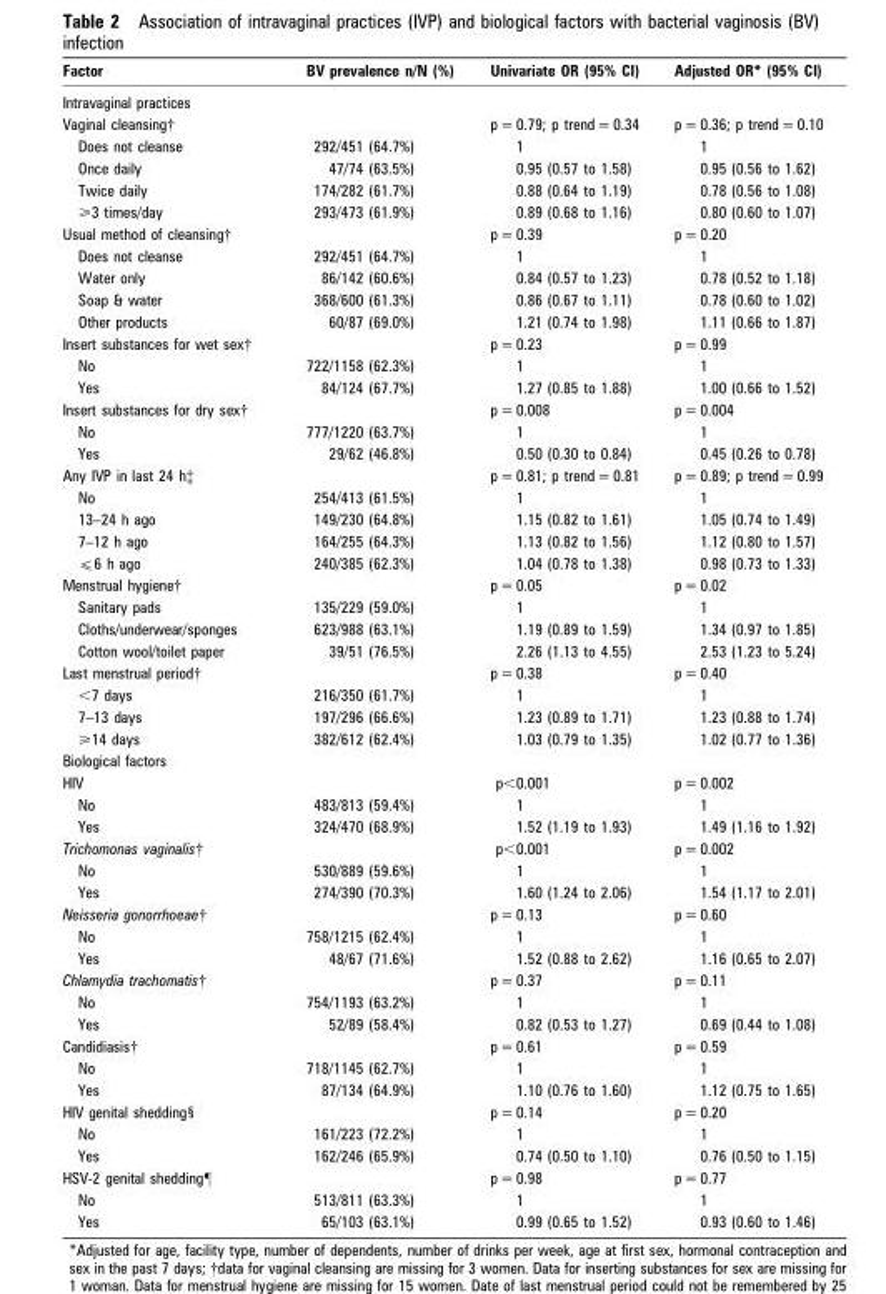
<table><thead><tr><td>Factor</td><td>BV prevalence n/N (%)</td><td>Univariate OR (95% CI)</td><td>Adjusted OR* (95% CI)</td></tr></thead><tbody><tr><td colspan="4">Intravaginal practices</td></tr><tr><td>Vaginal cleansing†</td><td></td><td>p = 0.79; p trend = 0.34</td><td>p = 0.36; p trend = 0.10</td></tr><tr><td>Does not cleanse</td><td>292/451 (64.7%)</td><td>1</td><td>1</td></tr><tr><td>Once daily</td><td>47/74 (63.5%)</td><td>0.95 (0.57 to 1.58)</td><td>0.95 (0.56 to 1.62)</td></tr><tr><td>Twice daily</td><td>174/282 (61.7%)</td><td>0.88 (0.64 to 1.19)</td><td>0.78 (0.56 to 1.08)</td></tr><tr><td>&gt;3 times/day</td><td>293/473 (61.9%)</td><td>0.89 (0.68 to 1.16)</td><td>0.80 (0.60 to 1.07)</td></tr><tr><td>Usual method of cleansing†</td><td></td><td>p = 0.39</td><td>p = 0.20</td></tr><tr><td>Does not cleanse</td><td>292/451 (64.7%)</td><td>1</td><td>1</td></tr><tr><td>Water only</td><td>86/142 (60.6%)</td><td>0.84 (0.57 to 1.23)</td><td>0.78 (0.52 to 1.18)</td></tr><tr><td>Soap &amp; water</td><td>368/600 (61.3%)</td><td>0.86 (0.67 to 1.11)</td><td>0.78 (0.60 to 1.02)</td></tr><tr><td>Other products</td><td>60/87 (69.0%)</td><td>1.21 (0.74 to 1.98)</td><td>1.11 (0.66 to 1.87)</td></tr><tr><td>Insert substances for wet sex†</td><td></td><td>p = 0.23</td><td>p = 0.99</td></tr><tr><td>No</td><td>722/1158 (62.3%)</td><td>1</td><td>1</td></tr><tr><td>Yes</td><td>84/124 (67.7%)</td><td>1.27 (0.85 to 1.88)</td><td>1.00 (0.66 to 1.52)</td></tr><tr><td>Insert substances for dry sex†</td><td></td><td>p = 0.008</td><td>p = 0.004</td></tr><tr><td>No</td><td>777/1220 (63.7%)</td><td>1</td><td>1</td></tr><tr><td>Yes</td><td>29/62 (46.8%)</td><td>0.50 (0.30 to 0.84)</td><td>0.45 (0.26 to 0.78)</td></tr><tr><td>Any IVP in last 24 h‡</td><td></td><td>p = 0.81; p trend = 0.81</td><td>p = 0.89; p trend = 0.99</td></tr><tr><td>No</td><td>254/413 (61.5%)</td><td>1</td><td>1</td></tr><tr><td>13–24 h ago</td><td>149/230 (64.8%)</td><td>1.15 (0.82 to 1.61)</td><td>1.05 (0.74 to 1.49)</td></tr><tr><td>7–12 h ago</td><td>164/255 (64.3%)</td><td>1.13 (0.82 to 1.56)</td><td>1.12 (0.80 to 1.57)</td></tr><tr><td>⩽6 h ago</td><td>240/385 (62.3%)</td><td>1.04 (0.78 to 1.38)</td><td>0.98 (0.73 to 1.33)</td></tr><tr><td>Menstrual hygiene†</td><td></td><td>p = 0.05</td><td>p = 0.02</td></tr><tr><td>Sanitary pads</td><td>135/229 (59.0%)</td><td>1</td><td>1</td></tr><tr><td>Cloths/underwear/sponges</td><td>623/988 (63.1%)</td><td>1.19 (0.89 to 1.59)</td><td>1.34 (0.97 to 1.85)</td></tr><tr><td>Cotton wool/toilet paper</td><td>39/51 (76.5%)</td><td>2.26 (1.13 to 4.55)</td><td>2.53 (1.23 to 5.24)</td></tr><tr><td>Last menstrual period†</td><td></td><td>p = 0.38</td><td>p = 0.40</td></tr><tr><td>&lt;7 days</td><td>216/350 (61.7%)</td><td>1</td><td>1</td></tr><tr><td>7–13 days</td><td>197/296 (66.6%)</td><td>1.23 (0.89 to 1.71)</td><td>1.23 (0.88 to 1.74)</td></tr><tr><td>&gt;14 days</td><td>382/612 (62.4%)</td><td>1.03 (0.79 to 1.35)</td><td>1.02 (0.77 to 1.36)</td></tr><tr><td colspan="4">Biological factors</td></tr><tr><td>HIV</td><td></td><td>p&lt;0.001</td><td>p = 0.002</td></tr><tr><td>No</td><td>483/813 (59.4%)</td><td>1</td><td>1</td></tr><tr><td>Yes</td><td>324/470 (68.9%)</td><td>1.52 (1.19 to 1.93)</td><td>1.49 (1.16 to 1.92)</td></tr><tr><td>Trichomonas vaginalis†</td><td></td><td>p&lt;0.001</td><td>p = 0.002</td></tr><tr><td>No</td><td>530/889 (59.6%)</td><td>1</td><td>1</td></tr><tr><td>Yes</td><td>274/390 (70.3%)</td><td>1.60 (1.24 to 2.06)</td><td>1.54 (1.17 to 2.01)</td></tr><tr><td>Neisseria gonorrhoeae†</td><td></td><td>p = 0.13</td><td>p = 0.60</td></tr><tr><td>No</td><td>758/1215 (62.4%)</td><td>1</td><td>1</td></tr><tr><td>Yes</td><td>48/67 (71.6%)</td><td>1.52 (0.88 to 2.62)</td><td>1.16 (0.65 to 2.07)</td></tr><tr><td>Chlamydia trachomatis†</td><td></td><td>p = 0.37</td><td>p = 0.11</td></tr><tr><td>No</td><td>754/1193 (63.2%)</td><td>1</td><td>1</td></tr><tr><td>Yes</td><td>52/89 (58.4%)</td><td>0.82 (0.53 to 1.27)</td><td>0.69 (0.44 to 1.08)</td></tr><tr><td>Candidiasis†</td><td></td><td>p = 0.61</td><td>p = 0.59</td></tr><tr><td>No</td><td>718/1145 (62.7%)</td><td>1</td><td>1</td></tr><tr><td>Yes</td><td>87/134 (64.9%)</td><td>1.10 (0.76 to 1.60)</td><td>1.12 (0.75 to 1.65)</td></tr><tr><td>HIV genital shedding§</td><td></td><td>p = 0.14</td><td>p = 0.20</td></tr><tr><td>No</td><td>161/223 (72.2%)</td><td>1</td><td>1</td></tr><tr><td>Yes</td><td>162/246 (65.9%)</td><td>0.74 (0.50 to 1.10)</td><td>0.76 (0.50 to 1.15)</td></tr><tr><td>HSV-2 genital shedding¶</td><td></td><td>p = 0.98</td><td>p = 0.77</td></tr><tr><td>No</td><td>513/811 (63.3%)</td><td>1</td><td>1</td></tr><tr><td>Yes</td><td>65/103 (63.1%)</td><td>0.99 (0.65 to 1.52)</td><td>0.93 (0.60 to 1.46)</td></tr></tbody></table>